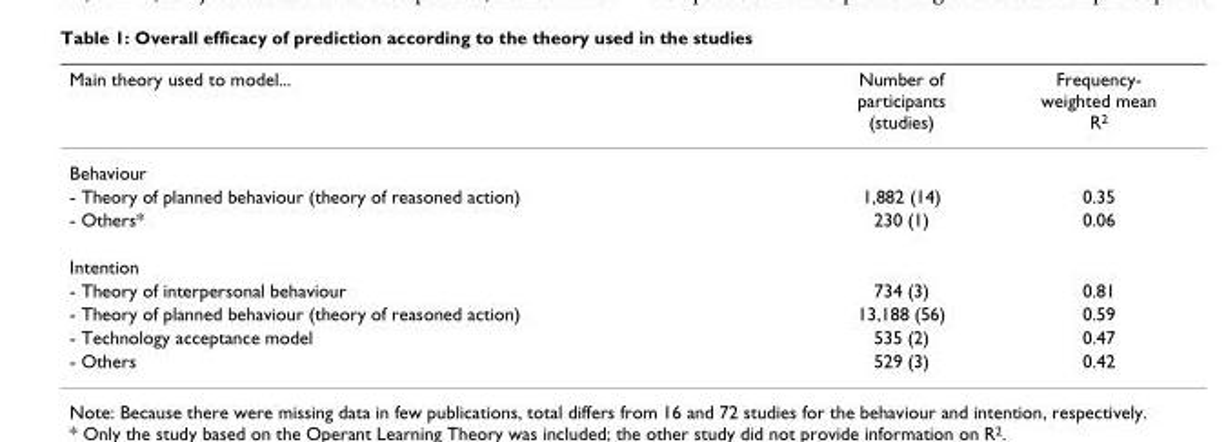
<table><thead><tr><td>Main theory used to model...</td><td>Number of participants (studies)</td><td>Frequency- weighted mean R<sup>2</sup></td></tr></thead><tbody><tr><td colspan="3">Behaviour</td></tr><tr><td>- Theory of planned behaviour (theory of reasoned action)</td><td>1,882 (14)</td><td>0.35</td></tr><tr><td>- Others*</td><td>230 (1)</td><td>0.06</td></tr><tr><td colspan="3">Intention</td></tr><tr><td>- Theory of interpersonal behaviour</td><td>734 (3)</td><td>0.81</td></tr><tr><td>- Theory of planned behaviour (theory of reasoned action)</td><td>13,188 (56)</td><td>0.59</td></tr><tr><td>- Technology acceptance model</td><td>535 (2)</td><td>0.47</td></tr><tr><td>- Others</td><td>529 (3)</td><td>0.42</td></tr></tbody></table>